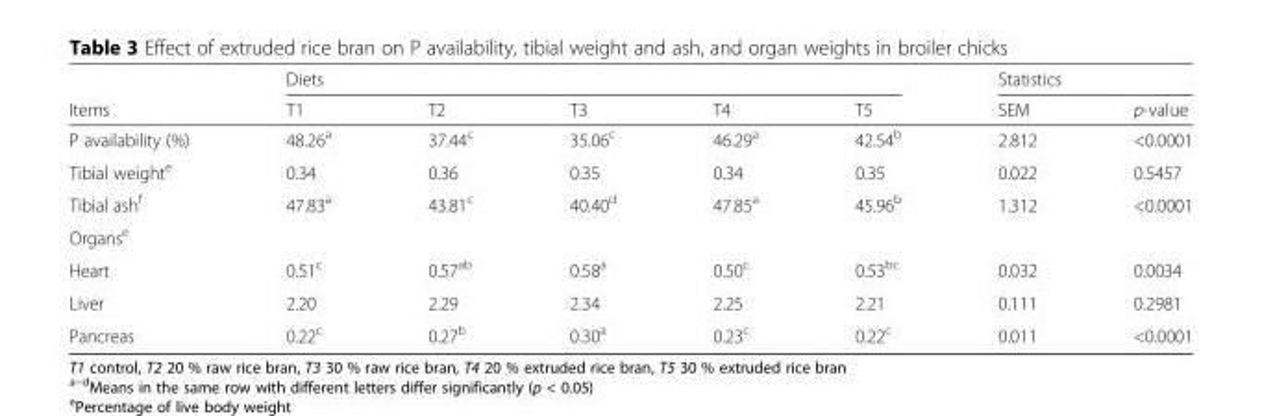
<table><thead><tr><td rowspan="2">Items</td><td colspan="5">Diets</td><td colspan="2">Statistics</td></tr><tr><td>T1</td><td>T2</td><td>T3</td><td>T4</td><td>T5</td><td>SEM</td><td>p-value</td></tr></thead><tbody><tr><td>P availability (%)</td><td>48.26<sup>a</sup></td><td>37.44<sup>c</sup></td><td>35.06<sup>c</sup></td><td>46.29<sup>a</sup></td><td>42.54<sup>b</sup></td><td>2.812</td><td>&lt;0.0001</td></tr><tr><td>Tibial weight<sup>e</sup></td><td>0.34</td><td>0.36</td><td>0.35</td><td>0.34</td><td>0.35</td><td>0.022</td><td>0.5457</td></tr><tr><td>Tibial ash<sup>f</sup></td><td>47.83<sup>a</sup></td><td>43.81<sup>c</sup></td><td>40.40<sup>d</sup></td><td>47.85<sup>a</sup></td><td>45.96<sup>b</sup></td><td>1.312</td><td>&lt;0.0001</td></tr><tr><td colspan="8">Organs<sup>e</sup></td></tr><tr><td>Heart</td><td>0.51<sup>c</sup></td><td>0.57<sup>ab</sup></td><td>0.58<sup>a</sup></td><td>0.50<sup>c</sup></td><td>0.53<sup>bc</sup></td><td>0.032</td><td>0.0034</td></tr><tr><td>Liver</td><td>2.20</td><td>2.29</td><td>2.34</td><td>2.25</td><td>2.21</td><td>0.111</td><td>0.2981</td></tr><tr><td>Pancreas</td><td>0.22<sup>c</sup></td><td>0.27<sup>b</sup></td><td>0.30<sup>a</sup></td><td>0.23<sup>c</sup></td><td>0.22<sup>c</sup></td><td>0.011</td><td>&lt;0.0001</td></tr></tbody></table>